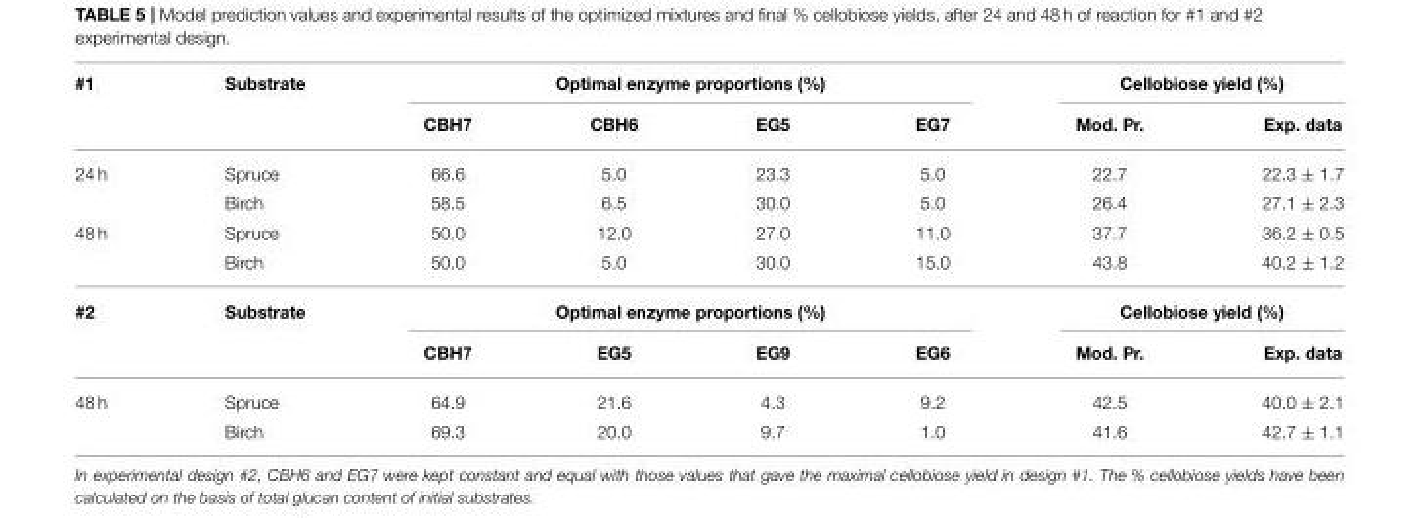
<table><thead><tr><td rowspan="2">#1</td><td rowspan="2">Substrate</td><td colspan="4">Optimal enzyme proportions (%)</td><td colspan="2">Cellobiose yield (%)</td></tr><tr><td>CBH7</td><td>CBH6</td><td>EG5</td><td>EG7</td><td>Mod. Pr.</td><td>Exp. data</td></tr></thead><tbody><tr><td rowspan="2">24 h</td><td>Spruce</td><td>66.6</td><td>5.0</td><td>23.3</td><td>5.0</td><td>22.7</td><td>22.3 ± 1.7</td></tr><tr><td>Birch</td><td>58.5</td><td>6.5</td><td>30.0</td><td>5.0</td><td>26.4</td><td>27.1 ± 2.3</td></tr><tr><td rowspan="2">48 h</td><td>Spruce</td><td>50.0</td><td>12.0</td><td>27.0</td><td>11.0</td><td>37.7</td><td>36.2 ± 0.5</td></tr><tr><td>Birch</td><td>50.0</td><td>5.0</td><td>30.0</td><td>15.0</td><td>43.8</td><td>40.2 ± 1.2</td></tr><tr><td rowspan="2">#2</td><td>Substrate</td><td colspan="4">Optimal enzyme proportions (%)</td><td colspan="2">Cellobiose yield (%)</td></tr><tr><td></td><td>CBH7</td><td>EG5</td><td>EG9</td><td>EG6</td><td>Mod. Pr.</td><td>Exp. data</td></tr><tr><td rowspan="2">48 h</td><td>Spruce</td><td>64.9</td><td>21.6</td><td>4.3</td><td>9.2</td><td>42.5</td><td>40.0 ± 2.1</td></tr><tr><td>Birch</td><td>69.3</td><td>20.0</td><td>9.7</td><td>1.0</td><td>41.6</td><td>42.7 ± 1.1</td></tr></tbody></table>